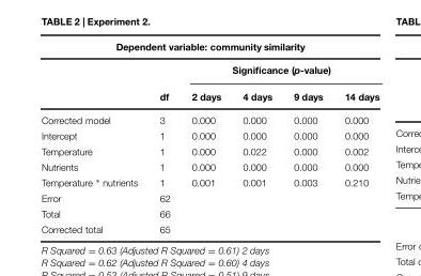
<table><thead><tr><td colspan="6">Dependent variable: community similarity</td></tr><tr><td rowspan="2"></td><td rowspan="2">df</td><td colspan="4">Significance (p-value)</td></tr><tr><td>2 days</td><td>4 days</td><td>9 days</td><td>14 days</td></tr></thead><tbody><tr><td>Corrected model</td><td>3</td><td>0.000</td><td>0.000</td><td>0.000</td><td>0.000</td></tr><tr><td>Intercept</td><td>1</td><td>0.000</td><td>0.000</td><td>0.000</td><td>0.000</td></tr><tr><td>Temperature</td><td>1</td><td>0.000</td><td>0.022</td><td>0.000</td><td>0.002</td></tr><tr><td>Nutrients</td><td>1</td><td>0.000</td><td>0.000</td><td>0.000</td><td>0.000</td></tr><tr><td>Temperature ∗ nutrients</td><td>1</td><td>0.001</td><td>0.001</td><td>0.003</td><td>0.210</td></tr><tr><td>Error</td><td>62</td><td></td><td></td><td></td><td></td></tr><tr><td>Total</td><td>66</td><td></td><td></td><td></td><td></td></tr><tr><td>Corrected total</td><td>65</td><td></td><td></td><td></td><td></td></tr></tbody></table>